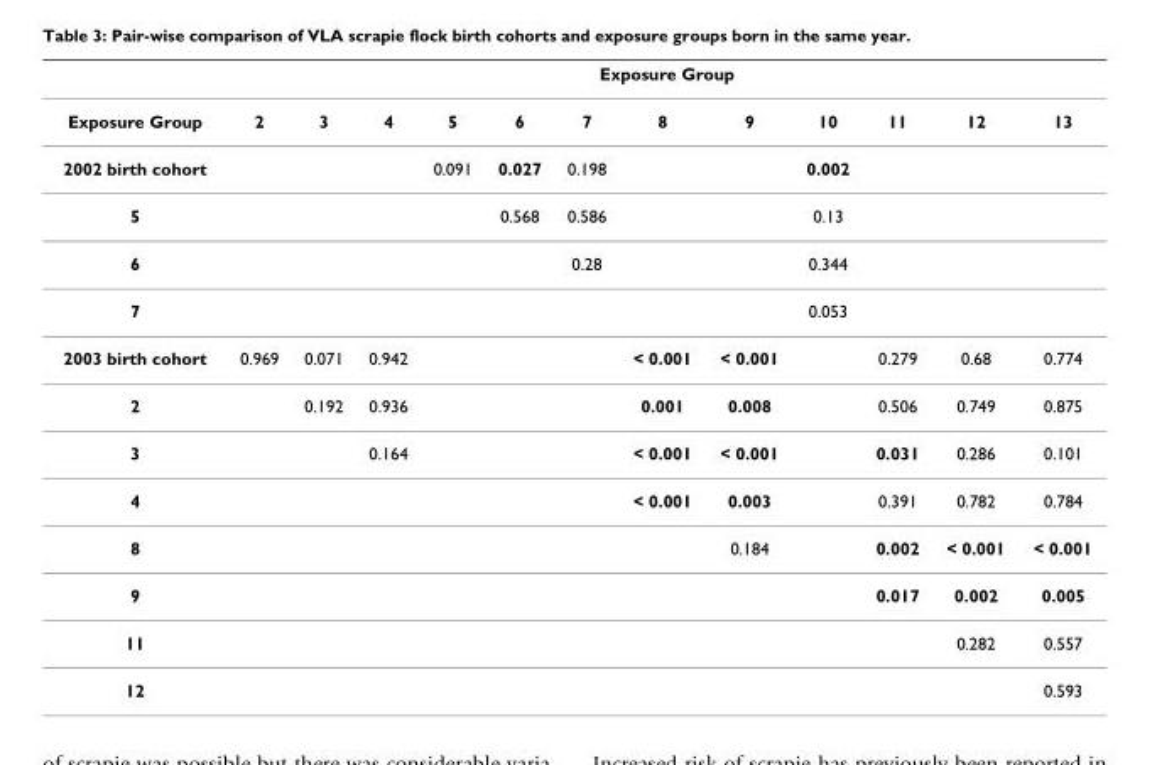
<table><thead><tr><td rowspan="2">Exposure Group</td><td colspan="12">Exposure Group</td></tr><tr><td>2</td><td>3</td><td>4</td><td>5</td><td>6</td><td>7</td><td>8</td><td>9</td><td>10</td><td>11</td><td>12</td><td>13</td></tr></thead><tbody><tr><td>2002 birth cohort</td><td></td><td></td><td></td><td>0.091</td><td>0.027</td><td>0.198</td><td></td><td></td><td>0.002</td><td></td><td></td><td></td></tr><tr><td>5</td><td></td><td></td><td></td><td></td><td>0.568</td><td>0.586</td><td></td><td></td><td>0.13</td><td></td><td></td><td></td></tr><tr><td>6</td><td></td><td></td><td></td><td></td><td></td><td>0.28</td><td></td><td></td><td>0.344</td><td></td><td></td><td></td></tr><tr><td>7</td><td></td><td></td><td></td><td></td><td></td><td></td><td></td><td></td><td>0.053</td><td></td><td></td><td></td></tr><tr><td>2003 birth cohort</td><td>0.969</td><td>0.071</td><td>0.942</td><td></td><td></td><td></td><td>&lt; 0.001</td><td>&lt; 0.001</td><td></td><td>0.279</td><td>0.68</td><td>0.774</td></tr><tr><td>2</td><td></td><td>0.192</td><td>0.936</td><td></td><td></td><td></td><td>0.001</td><td>0.008</td><td></td><td>0.506</td><td>0.749</td><td>0.875</td></tr><tr><td>3</td><td></td><td></td><td>0.164</td><td></td><td></td><td></td><td>&lt; 0.001</td><td>&lt; 0.001</td><td></td><td>0.031</td><td>0.286</td><td>0.101</td></tr><tr><td>4</td><td></td><td></td><td></td><td></td><td></td><td></td><td>&lt; 0.001</td><td>0.003</td><td></td><td>0.391</td><td>0.782</td><td>0.784</td></tr><tr><td>8</td><td></td><td></td><td></td><td></td><td></td><td></td><td></td><td>0.184</td><td></td><td>0.002</td><td>&lt; 0.001</td><td>&lt; 0.001</td></tr><tr><td>9</td><td></td><td></td><td></td><td></td><td></td><td></td><td></td><td></td><td></td><td>0.017</td><td>0.002</td><td>0.005</td></tr><tr><td>11</td><td></td><td></td><td></td><td></td><td></td><td></td><td></td><td></td><td></td><td></td><td>0.282</td><td>0.557</td></tr><tr><td>12</td><td></td><td></td><td></td><td></td><td></td><td></td><td></td><td></td><td></td><td></td><td></td><td>0.593</td></tr></tbody></table>